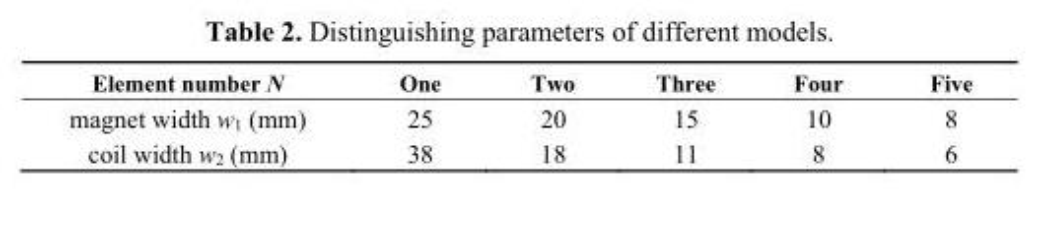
<table><thead><tr><td>Element number N</td><td>One</td><td>Two</td><td>Three</td><td>Four</td><td>Five</td></tr></thead><tbody><tr><td>magnet width w<sub>1</sub> (mm)</td><td>25</td><td>20</td><td>15</td><td>10</td><td>8</td></tr><tr><td>coil width w<sub>2</sub> (mm)</td><td>38</td><td>18</td><td>11</td><td>8</td><td>6</td></tr></tbody></table>